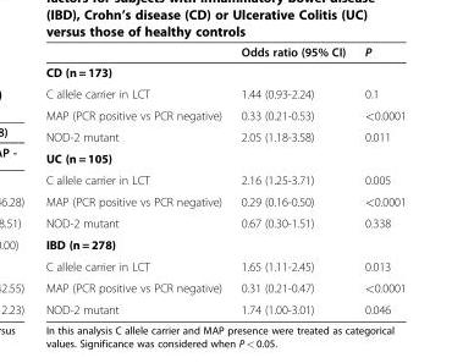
<table><thead><tr><td></td><td>Odds ratio (95% CI)</td><td>P</td></tr></thead><tbody><tr><td colspan="3">CD (n = 173)</td></tr><tr><td>C allele carrier in LCT</td><td>1.44 (0.93-2.24)</td><td>0.1</td></tr><tr><td>MAP (PCR positive vs PCR negative)</td><td>0.33 (0.21-0.53)</td><td>&lt;0.0001</td></tr><tr><td>NOD-2 mutant</td><td>2.05 (1.18-3.58)</td><td>0.011</td></tr><tr><td colspan="3">UC (n = 105)</td></tr><tr><td>C allele carrier in LCT</td><td>2.16 (1.25-3.71)</td><td>0.005</td></tr><tr><td>MAP (PCR positive vs PCR negative)</td><td>0.29 (0.16-0.50)</td><td>&lt;0.0001</td></tr><tr><td>NOD-2 mutant</td><td>0.67 (0.30-1.51)</td><td>0.338</td></tr><tr><td colspan="3">IBD (n = 278)</td></tr><tr><td>C allele carrier in LCT</td><td>1.65 (1.11-2.45)</td><td>0.013</td></tr><tr><td>MAP (PCR positive vs PCR negative)</td><td>0.31 (0.21-0.47)</td><td>&lt;0.0001</td></tr><tr><td>NOD-2 mutant</td><td>1.74 (1.00-3.01)</td><td>0.046</td></tr></tbody></table>